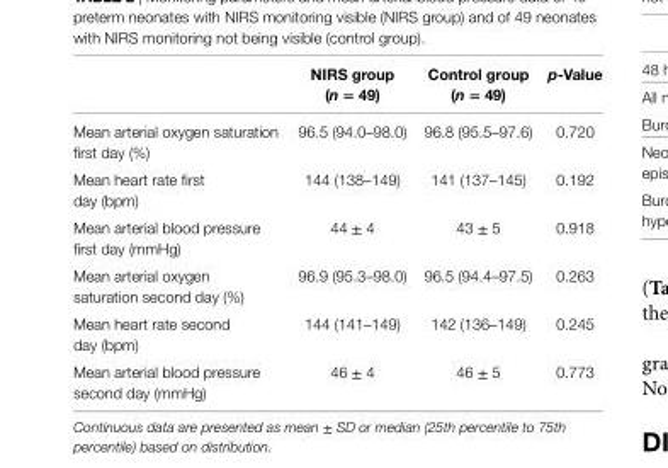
<table><thead><tr><td></td><td>nirS group (n = 49)</td><td>Control group (n = 49)</td><td>p-Value</td></tr></thead><tbody><tr><td>Mean arterial oxygen saturation first day (%)</td><td>96.5 (94.0–98.0)</td><td>96.8 (95.5–97.6)</td><td>0.720</td></tr><tr><td>Mean heart rate first day (bpm)</td><td>144 (138–149)</td><td>141 (137–145)</td><td>0.192</td></tr><tr><td>Mean arterial blood pressure first day (mmHg)</td><td>44 ± 4</td><td>43 ± 5</td><td>0.918</td></tr><tr><td>Mean arterial oxygen saturation second day (%)</td><td>96.9 (95.3–98.0)</td><td>96.5 (94.4–97.5)</td><td>0.263</td></tr><tr><td>Mean heart rate second day (bpm)</td><td>144 (141–149)</td><td>142 (136–149)</td><td>0.245</td></tr><tr><td>Mean arterial blood pressure second day (mmHg)</td><td>46 ± 4</td><td>46 ± 5</td><td>0.773</td></tr></tbody></table>